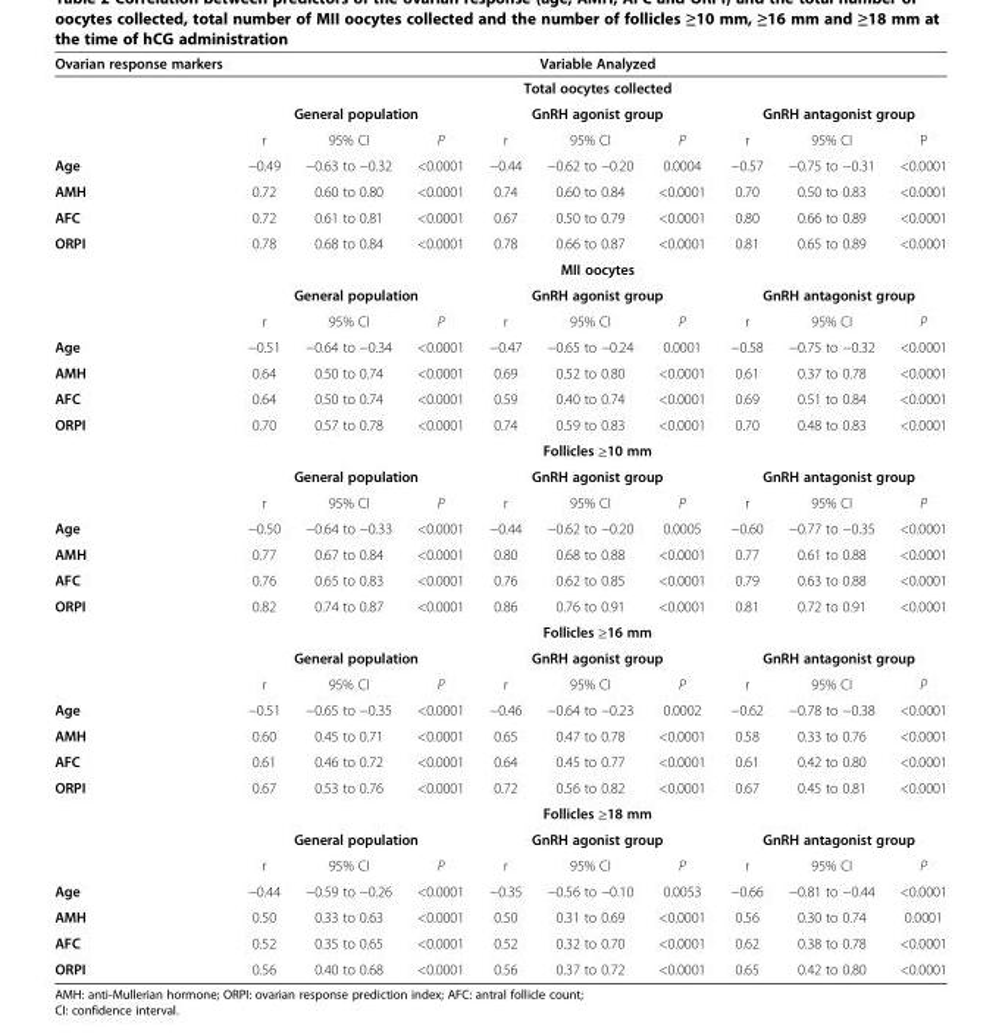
<table><thead><tr><td rowspan="4">Ovarian response markers</td><td rowspan="2" colspan="9">Variable Analyzed Total oocytes collected</td></tr><tr></tr><tr><td colspan="3">General population</td><td colspan="3">GnRH agonist group</td><td colspan="3">GnRH antagonist group</td></tr><tr><td>r</td><td>95% CI</td><td>P</td><td>r</td><td>95% CI</td><td>P</td><td>r</td><td>95% CI</td><td>P</td></tr></thead><tbody><tr><td>Age</td><td>−0.49</td><td>−0.63 to −0.32</td><td>&lt;0.0001</td><td>−0.44</td><td>−0.62 to −0.20</td><td>0.0004</td><td>−0.57</td><td>−0.75 to −0.31</td><td>&lt;0.0001</td></tr><tr><td>AMH</td><td>0.72</td><td>0.60 to 0.80</td><td>&lt;0.0001</td><td>0.74</td><td>0.60 to 0.84</td><td>&lt;0.0001</td><td>0.70</td><td>0.50 to 0.83</td><td>&lt;0.0001</td></tr><tr><td>AFC</td><td>0.72</td><td>0.61 to 0.81</td><td>&lt;0.0001</td><td>0.67</td><td>0.50 to 0.79</td><td>&lt;0.0001</td><td>0.80</td><td>0.66 to 0.89</td><td>&lt;0.0001</td></tr><tr><td rowspan="4">ORPI</td><td>0.78</td><td>0.68 to 0.84</td><td>&lt;0.0001</td><td>0.78</td><td>0.66 to 0.87</td><td>&lt;0.0001</td><td>0.81</td><td>0.65 to 0.89</td><td>&lt;0.0001</td></tr><tr><td colspan="9">MII oocytes</td></tr><tr><td colspan="3">General population</td><td colspan="3">GnRH agonist group</td><td colspan="3">GnRH antagonist group</td></tr><tr><td>r</td><td>95% CI</td><td>P</td><td>r</td><td>95% CI</td><td>P</td><td>r</td><td>95% CI</td><td>P</td></tr><tr><td>Age</td><td>−0.51</td><td>−0.64 to −0.34</td><td>&lt;0.0001</td><td>−0.47</td><td>−0.65 to −0.24</td><td>0.0001</td><td>−0.58</td><td>−0.75 to −0.32</td><td>&lt;0.0001</td></tr><tr><td>AMH</td><td>0.64</td><td>0.50 to 0.74</td><td>&lt;0.0001</td><td>0.69</td><td>0.52 to 0.80</td><td>&lt;0.0001</td><td>0.61</td><td>0.37 to 0.78</td><td>&lt;0.0001</td></tr><tr><td>AFC</td><td>0.64</td><td>0.50 to 0.74</td><td>&lt;0.0001</td><td>0.59</td><td>0.40 to 0.74</td><td>&lt;0.0001</td><td>0.69</td><td>0.51 to 0.84</td><td>&lt;0.0001</td></tr><tr><td rowspan="4">ORPI</td><td>0.70</td><td>0.57 to 0.78</td><td>&lt;0.0001</td><td>0.74</td><td>0.59 to 0.83</td><td>&lt;0.0001</td><td>0.70</td><td>0.48 to 0.83</td><td>&lt;0.0001</td></tr><tr><td colspan="9">Follicles ≥10 mm</td></tr><tr><td colspan="3">General population</td><td colspan="3">GnRH agonist group</td><td colspan="3">GnRH antagonist group</td></tr><tr><td>r</td><td>95% CI</td><td>P</td><td>r</td><td>95% CI</td><td>P</td><td>r</td><td>95% CI</td><td>P</td></tr><tr><td>Age</td><td>−0.50</td><td>−0.64 to −0.33</td><td>&lt;0.0001</td><td>−0.44</td><td>−0.62 to −0.20</td><td>0.0005</td><td>−0.60</td><td>−0.77 to −0.35</td><td>&lt;0.0001</td></tr><tr><td>AMH</td><td>0.77</td><td>0.67 to 0.84</td><td>&lt;0.0001</td><td>0.80</td><td>0.68 to 0.88</td><td>&lt;0.0001</td><td>0.77</td><td>0.61 to 0.88</td><td>&lt;0.0001</td></tr><tr><td>AFC</td><td>0.76</td><td>0.65 to 0.83</td><td>&lt;0.0001</td><td>0.76</td><td>0.62 to 0.85</td><td>&lt;0.0001</td><td>0.79</td><td>0.63 to 0.88</td><td>&lt;0.0001</td></tr><tr><td rowspan="4">ORPI</td><td>0.82</td><td>0.74 to 0.87</td><td>&lt;0.0001</td><td>0.86</td><td>0.76 to 0.91</td><td>&lt;0.0001</td><td>0.81</td><td>0.72 to 0.91</td><td>&lt;0.0001</td></tr><tr><td colspan="9">Follicles ≥16 mm</td></tr><tr><td colspan="3">General population</td><td colspan="3">GnRH agonist group</td><td colspan="3">GnRH antagonist group</td></tr><tr><td>r</td><td>95% CI</td><td>P</td><td>r</td><td>95% CI</td><td>P</td><td>r</td><td>95% CI</td><td>P</td></tr><tr><td>Age</td><td>−0.51</td><td>−0.65 to −0.35</td><td>&lt;0.0001</td><td>−0.46</td><td>−0.64 to −0.23</td><td>0.0002</td><td>−0.62</td><td>−0.78 to −0.38</td><td>&lt;0.0001</td></tr><tr><td>AMH</td><td>0.60</td><td>0.45 to 0.71</td><td>&lt;0.0001</td><td>0.65</td><td>0.47 to 0.78</td><td>&lt;0.0001</td><td>0.58</td><td>0.33 to 0.76</td><td>&lt;0.0001</td></tr><tr><td>AFC</td><td>0.61</td><td>0.46 to 0.72</td><td>&lt;0.0001</td><td>0.64</td><td>0.45 to 0.77</td><td>&lt;0.0001</td><td>0.61</td><td>0.42 to 0.80</td><td>&lt;0.0001</td></tr><tr><td rowspan="4">ORPI</td><td>0.67</td><td>0.53 to 0.76</td><td>&lt;0.0001</td><td>0.72</td><td>0.56 to 0.82</td><td>&lt;0.0001</td><td>0.67</td><td>0.45 to 0.81</td><td>&lt;0.0001</td></tr><tr><td colspan="9">Follicles ≥18 mm</td></tr><tr><td colspan="3">General population</td><td colspan="3">GnRH agonist group</td><td colspan="3">GnRH antagonist group</td></tr><tr><td>r</td><td>95% CI</td><td>P</td><td>r</td><td>95% CI</td><td>P</td><td>r</td><td>95% CI</td><td>P</td></tr><tr><td>Age</td><td>−0.44</td><td>−0.59 to −0.26</td><td>&lt;0.0001</td><td>−0.35</td><td>−0.56 to −0.10</td><td>0.0053</td><td>−0.66</td><td>−0.81 to −0.44</td><td>&lt;0.0001</td></tr><tr><td>AMH</td><td>0.50</td><td>0.33 to 0.63</td><td>&lt;0.0001</td><td>0.50</td><td>0.31 to 0.69</td><td>&lt;0.0001</td><td>0.56</td><td>0.30 to 0.74</td><td>0.0001</td></tr><tr><td>AFC</td><td>0.52</td><td>0.35 to 0.65</td><td>&lt;0.0001</td><td>0.52</td><td>0.32 to 0.70</td><td>&lt;0.0001</td><td>0.62</td><td>0.38 to 0.78</td><td>&lt;0.0001</td></tr><tr><td>ORPI</td><td>0.56</td><td>0.40 to 0.68</td><td>&lt;0.0001</td><td>0.56</td><td>0.37 to 0.72</td><td>&lt;0.0001</td><td>0.65</td><td>0.42 to 0.80</td><td>&lt;0.0001</td></tr></tbody></table>